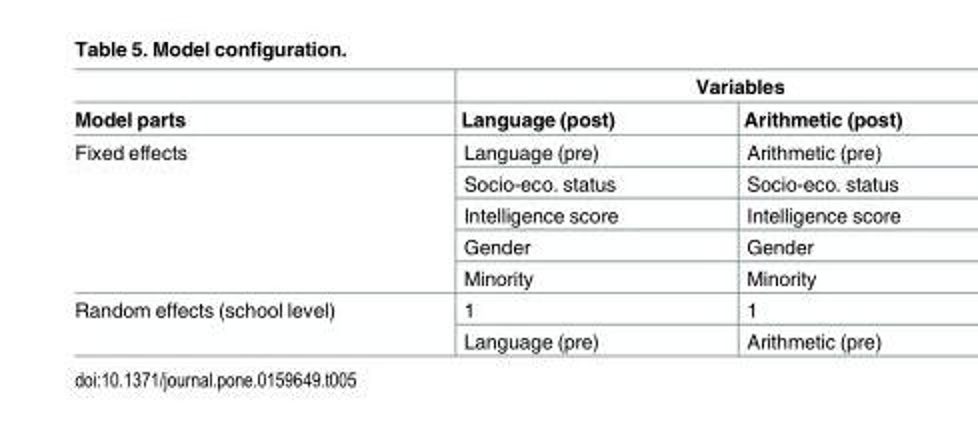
<table><thead><tr><td rowspan="2">Model parts</td><td colspan="2">Variables</td></tr><tr><td>Language (post)</td><td>Arithmetic (post)</td></tr></thead><tbody><tr><td rowspan="5">Fixed effects</td><td>Language (pre)</td><td>Arithmetic (pre)</td></tr><tr><td>Socio-eco. status</td><td>Socio-eco. status</td></tr><tr><td>Intelligence score</td><td>Intelligence score</td></tr><tr><td>Gender</td><td>Gender</td></tr><tr><td>Minority</td><td>Minority</td></tr><tr><td rowspan="2">Random effects (school level)</td><td>1</td><td>1</td></tr><tr><td>Language (pre)</td><td>Arithmetic (pre)</td></tr></tbody></table>